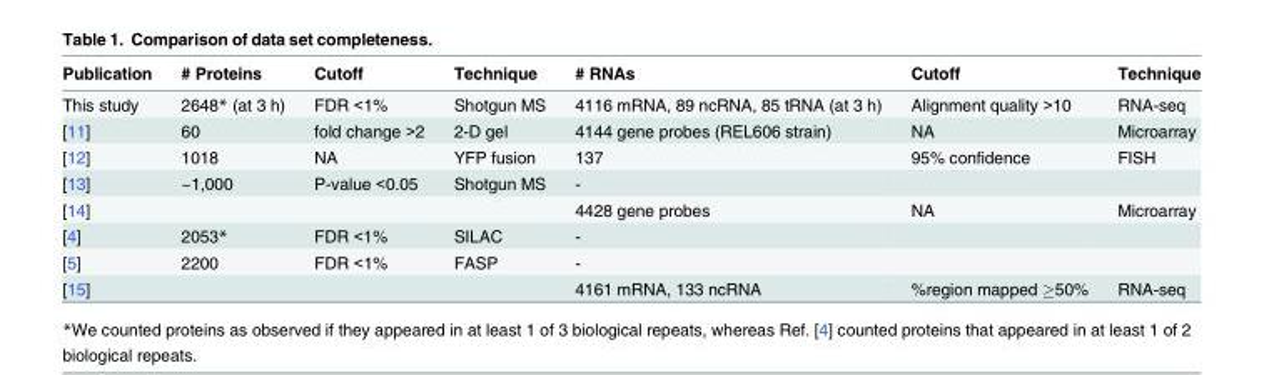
<table><thead><tr><td>Publication</td><td># Proteins</td><td>Cutoff</td><td>Technique</td><td># RNAs</td><td>Cutoff</td><td>Technique</td></tr></thead><tbody><tr><td>This study</td><td>2648* (at 3 h)</td><td>FDR &lt;1%</td><td>Shotgun MS</td><td>4116 mRNA, 89 ncRNA, 85 tRNA (at 3 h)</td><td>Alignment quality &gt;10</td><td>RNA-seq</td></tr><tr><td>[11]</td><td>60</td><td>fold change &gt;2</td><td>2-D gel</td><td>4144 gene probes (REL606 strain)</td><td>NA</td><td>Microarray</td></tr><tr><td>[12]</td><td>1018</td><td>NA</td><td>YFP fusion</td><td>137</td><td>95% confidence</td><td>FISH</td></tr><tr><td>[13]</td><td>~1,000</td><td>P-value &lt;0.05</td><td>Shotgun MS</td><td>-</td><td></td><td></td></tr><tr><td>[14]</td><td></td><td></td><td></td><td>4428 gene probes</td><td>NA</td><td>Microarray</td></tr><tr><td>[4]</td><td>2053*</td><td>FDR &lt;1%</td><td>SILAC</td><td>-</td><td></td><td></td></tr><tr><td>[5]</td><td>2200</td><td>FDR &lt;1%</td><td>FASP</td><td>-</td><td></td><td></td></tr><tr><td>[15]</td><td></td><td></td><td></td><td>4161 mRNA, 133 ncRNA</td><td>%region mapped ≥50%</td><td>RNA-seq</td></tr></tbody></table>